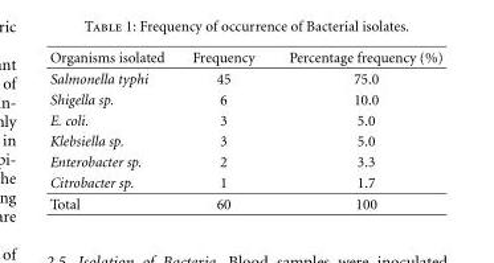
<table><thead><tr><td>Organisms isolated</td><td>Frequency</td><td>Percentage frequency (%)</td></tr></thead><tbody><tr><td>Salmonella typhi</td><td>45</td><td>75.0</td></tr><tr><td>Shigella sp.</td><td>6</td><td>10.0</td></tr><tr><td>E. coli.</td><td>3</td><td>5.0</td></tr><tr><td>Klebsiella sp.</td><td>3</td><td>5.0</td></tr><tr><td>Enterobacter sp.</td><td>2</td><td>3.3</td></tr><tr><td>Citrobacter sp.</td><td>1</td><td>1.7</td></tr><tr><td>Total</td><td>60</td><td>100</td></tr></tbody></table>